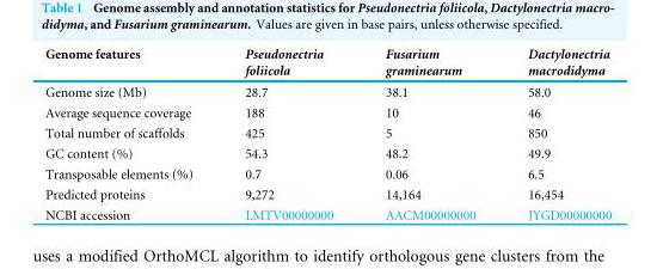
<table><thead><tr><td>Genome features</td><td>Pseudonectria foliicola</td><td>Fusarium graminearum</td><td>Dactylonectria macrodidyma</td></tr></thead><tbody><tr><td>Genome size (Mb)</td><td>28.7</td><td>38.1</td><td>58.0</td></tr><tr><td>Average sequence coverage</td><td>188</td><td>10</td><td>46</td></tr><tr><td>Total number of scaffolds</td><td>425</td><td>5</td><td>850</td></tr><tr><td>GC content (%)</td><td>54.3</td><td>48.2</td><td>49.9</td></tr><tr><td>Transposable elements (%)</td><td>0.7</td><td>0.06</td><td>6.5</td></tr><tr><td>Predicted proteins</td><td>9,272</td><td>14,164</td><td>16,454</td></tr><tr><td>NCBI accession</td><td>LMTV00000000</td><td>AACM00000000</td><td>JYGD00000000</td></tr></tbody></table>